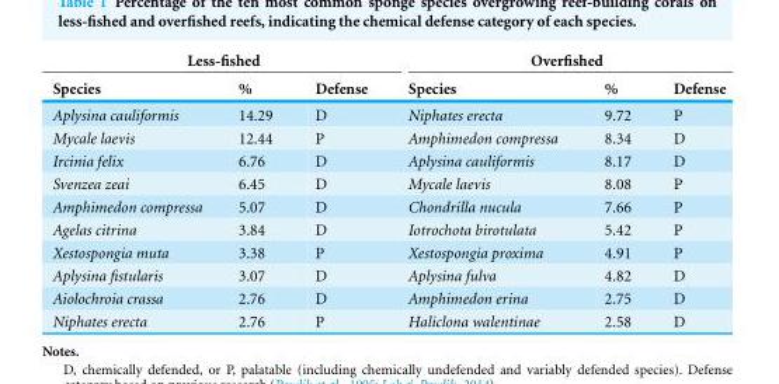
<table><thead><tr><td colspan="3">Less-fished</td><td colspan="3">Overfished</td></tr><tr><td>Species</td><td>%</td><td>Defense</td><td>Species</td><td>%</td><td>Defense</td></tr></thead><tbody><tr><td>Aplysina cauliformis</td><td>14.29</td><td>D</td><td>Niphates erecta</td><td>9.72</td><td>P</td></tr><tr><td>Mycale laevis</td><td>12.44</td><td>P</td><td>Amphimedon compressa</td><td>8.34</td><td>D</td></tr><tr><td>Ircinia felix</td><td>6.76</td><td>D</td><td>Aplysina cauliformis</td><td>8.17</td><td>D</td></tr><tr><td>Svenzea zeai</td><td>6.45</td><td>D</td><td>Mycale laevis</td><td>8.08</td><td>P</td></tr><tr><td>Amphimedon compressa</td><td>5.07</td><td>D</td><td>Chondrilla nucula</td><td>7.66</td><td>P</td></tr><tr><td>Agelas citrina</td><td>3.84</td><td>D</td><td>Iotrochota birotulata</td><td>5.42</td><td>P</td></tr><tr><td>Xestospongia muta</td><td>3.38</td><td>P</td><td>Xestospongia proxima</td><td>4.91</td><td>P</td></tr><tr><td>Aplysina fistularis</td><td>3.07</td><td>D</td><td>Aplysina fulva</td><td>4.82</td><td>D</td></tr><tr><td>Aiolochroia crassa</td><td>2.76</td><td>D</td><td>Amphimedon erina</td><td>2.75</td><td>D</td></tr><tr><td>Niphates erecta</td><td>2.76</td><td>P</td><td>Haliclona walentinae</td><td>2.58</td><td>D</td></tr></tbody></table>